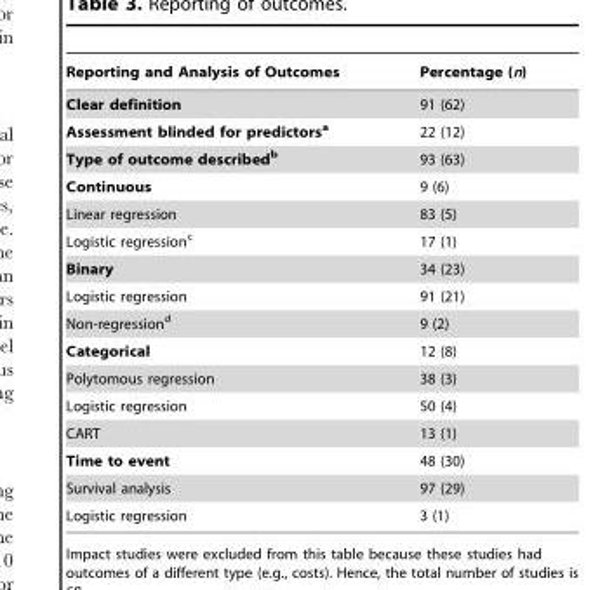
<table><thead><tr><td>Reporting and Analysis of Outcomes</td><td>Percentage (n)</td></tr></thead><tbody><tr><td>Clear definition</td><td>91 (62)</td></tr><tr><td>Assessment blinded for predictorsa</td><td>22 (12)</td></tr><tr><td>Type of outcome describedb</td><td>93 (63)</td></tr><tr><td>Continuous</td><td>9 (6)</td></tr><tr><td>Linear regression</td><td>83 (5)</td></tr><tr><td>Logistic regression<sup>c</sup></td><td>17 (1)</td></tr><tr><td>Binary</td><td>34 (23)</td></tr><tr><td>Logistic regression</td><td>91 (21)</td></tr><tr><td>Non-regression<sup>d</sup></td><td>9 (2)</td></tr><tr><td>Categorical</td><td>12 (8)</td></tr><tr><td>Polytomous regression</td><td>38 (3)</td></tr><tr><td>Logistic regression</td><td>50 (4)</td></tr><tr><td>CART</td><td>13 (1)</td></tr><tr><td>Time to event</td><td>48 (30)</td></tr><tr><td>Survival analysis</td><td>97 (29)</td></tr><tr><td>Logistic regression</td><td>3 (1)</td></tr></tbody></table>